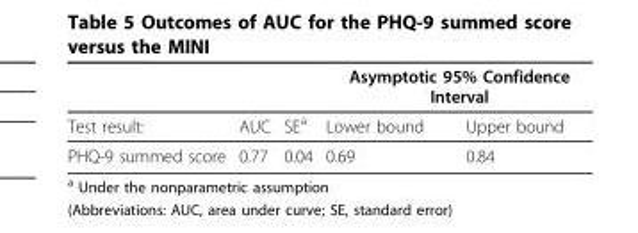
<table><thead><tr><td rowspan="2">Test result:</td><td rowspan="2">AUC</td><td rowspan="2">SE<sup>a</sup></td><td colspan="2">Asymptotic 95% Confidence Interval</td></tr><tr><td>Lower bound</td><td>Upper bound</td></tr></thead><tbody><tr><td>PHQ-9 summed score</td><td>0.77</td><td>0.04</td><td>0.69</td><td>0.84</td></tr></tbody></table>